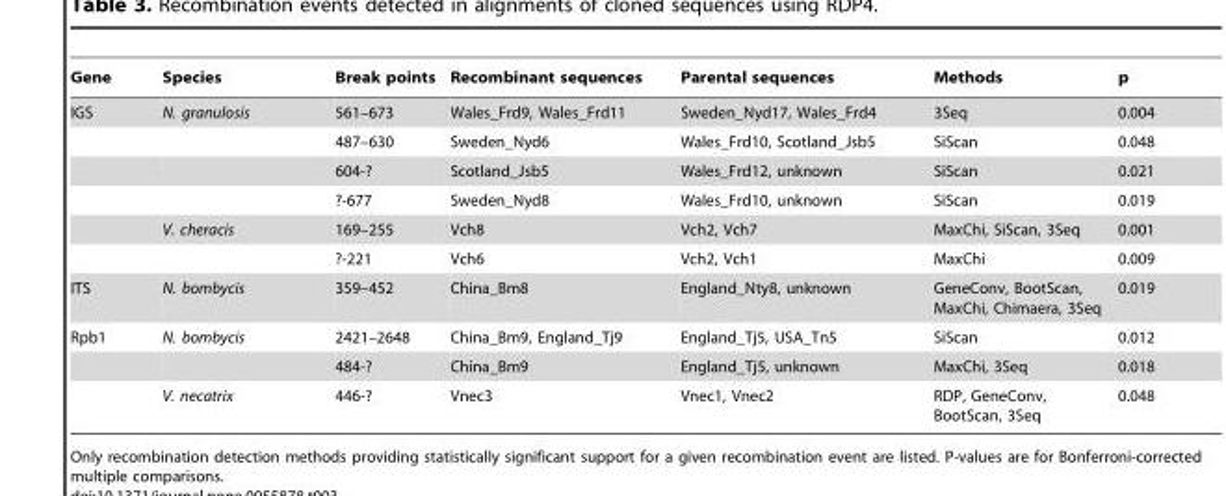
<table><thead><tr><td>Gene</td><td>Species</td><td>Break points</td><td>Recombinant sequences</td><td>Parental sequences</td><td>Methods</td><td>p</td></tr></thead><tbody><tr><td rowspan="6">IGS</td><td>N. granulosis</td><td>561–673</td><td>Wales_Frd9, Wales_Frd11</td><td>Sweden_Nyd17, Wales_Frd4</td><td>3Seq</td><td>0.004</td></tr><tr><td></td><td>487–630</td><td>Sweden_Nyd6</td><td>Wales_Frd10, Scotland_Jsb5</td><td>SiScan</td><td>0.048</td></tr><tr><td></td><td>604-?</td><td>Scotland_Jsb5</td><td>Wales_Frd12, unknown</td><td>SiScan</td><td>0.021</td></tr><tr><td></td><td>?-677</td><td>Sweden_Nyd8</td><td>Wales_Frd10, unknown</td><td>SiScan</td><td>0.019</td></tr><tr><td>V. cheracis</td><td>169–255</td><td>Vch8</td><td>Vch2, Vch7</td><td>MaxChi, SiScan, 3Seq</td><td>0.001</td></tr><tr><td></td><td>?-221</td><td>Vch6</td><td>Vch2, Vch1</td><td>MaxChi</td><td>0.009</td></tr><tr><td>ITS</td><td>N. bombycis</td><td>359–452</td><td>China_Bm8</td><td>England_Nty8, unknown</td><td>GeneConv, BootScan, MaxChi, Chimaera, 3Seq</td><td>0.019</td></tr><tr><td rowspan="3">Rpb1</td><td>N. bombycis</td><td>2421–2648</td><td>China_Bm9, England_Tj9</td><td>England_Tj5, USA_Tn5</td><td>SiScan</td><td>0.012</td></tr><tr><td></td><td>484-?</td><td>China_Bm9</td><td>England_Tj5, unknown</td><td>MaxChi, 3Seq</td><td>0.018</td></tr><tr><td>V. necatrix</td><td>446-?</td><td>Vnec3</td><td>Vnec1, Vnec2</td><td>RDP, GeneConv, BootScan, 3Seq</td><td>0.048</td></tr></tbody></table>